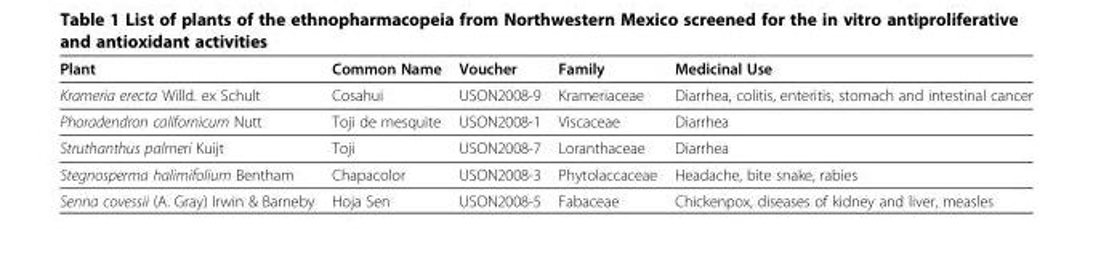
<table><thead><tr><td>Plant</td><td>Common Name</td><td>Voucher</td><td>Family</td><td>Medicinal Use</td></tr></thead><tbody><tr><td>Krameria erecta Willd. ex Schult</td><td>Cosahui</td><td>USON2008-9</td><td>Krameriaceae</td><td>Diarrhea, colitis, enteritis, stomach and intestinal cancer</td></tr><tr><td>Phoradendron californicum Nutt</td><td>Toji de mesquite</td><td>USON2008-1</td><td>Viscaceae</td><td>Diarrhea</td></tr><tr><td>Struthanthus palmeri Kuijt</td><td>Toji</td><td>USON2008-7</td><td>Loranthaceae</td><td>Diarrhea</td></tr><tr><td>Stegnosperma halimifolium Bentham</td><td>Chapacolor</td><td>USON2008-3</td><td>Phytolaccaceae</td><td>Headache, bite snake, rabies</td></tr><tr><td>Senna covessii (A. Gray) Irwin &amp; Barneby</td><td>Hoja Sen</td><td>USON2008-5</td><td>Fabaceae</td><td>Chickenpox, diseases of kidney and liver, measles</td></tr></tbody></table>